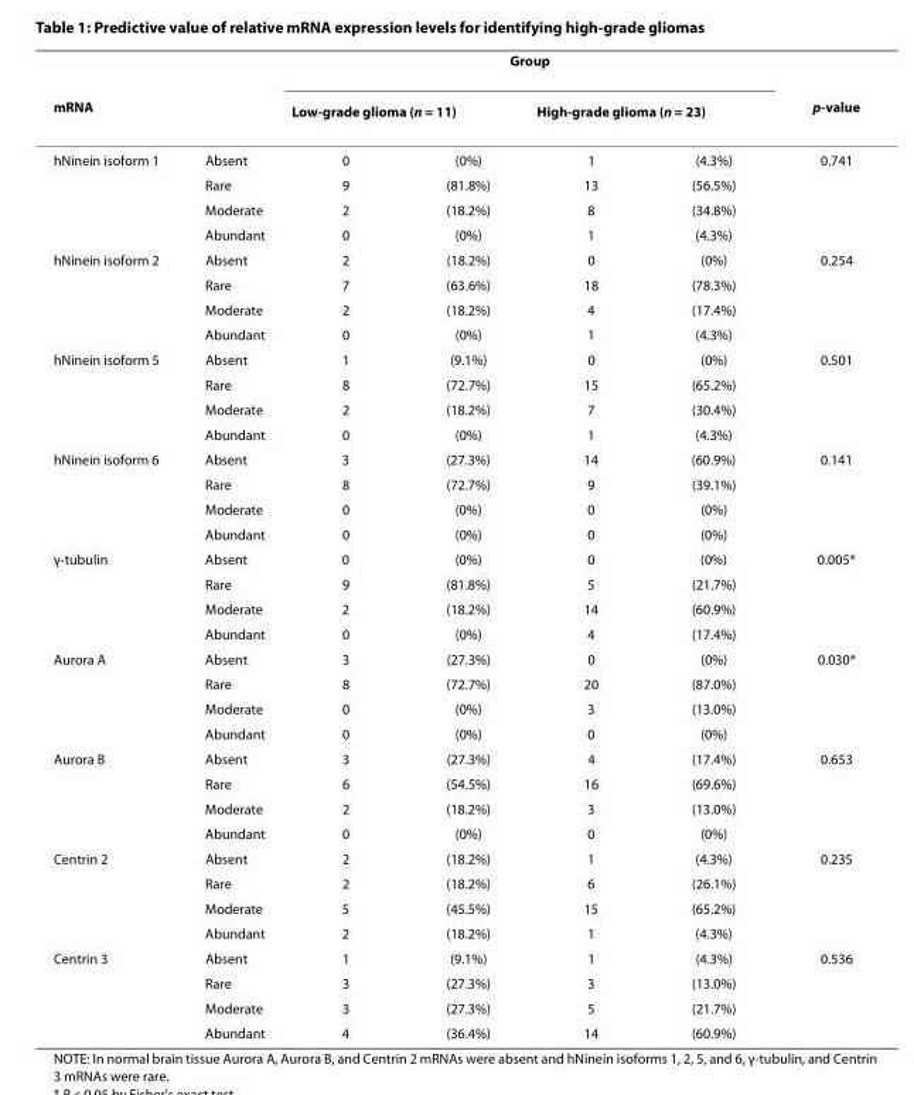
<table><thead><tr><td></td><td></td><td colspan="4">Group</td><td rowspan="3">p-value 0.741</td></tr><tr><td colspan="2">mRNA</td><td colspan="2">Low-grade glioma (n = 11)</td><td colspan="2">High-grade glioma (n = 23)</td></tr><tr><td>hNinein isoform 1</td><td>Absent</td><td>0</td><td>(0%)</td><td>1</td><td>(4.3%)</td></tr></thead><tbody><tr><td></td><td>Rare</td><td>9</td><td>(81.8%)</td><td>13</td><td>(56.5%)</td><td></td></tr><tr><td></td><td>Moderate</td><td>2</td><td>(18.2%)</td><td>8</td><td>(34.8%)</td><td></td></tr><tr><td></td><td>Abundant</td><td>0</td><td>(0%)</td><td>1</td><td>(4.3%)</td><td></td></tr><tr><td rowspan="4">hNinein isoform 2</td><td>Absent</td><td>2</td><td>(18.2%)</td><td>0</td><td>(0%)</td><td>0.254</td></tr><tr><td>Rare</td><td>7</td><td>(63.6%)</td><td>18</td><td>(78.3%)</td><td></td></tr><tr><td>Moderate</td><td>2</td><td>(18.2%)</td><td>4</td><td>(17.4%)</td><td></td></tr><tr><td>Abundant</td><td>0</td><td>(0%)</td><td>1</td><td>(4.3%)</td><td></td></tr><tr><td rowspan="4">hNinein isoform 5</td><td>Absent</td><td>1</td><td>(9.1%)</td><td>0</td><td>(0%)</td><td>0.501</td></tr><tr><td>Rare</td><td>8</td><td>(72.7%)</td><td>15</td><td>(65.2%)</td><td></td></tr><tr><td>Moderate</td><td>2</td><td>(18.2%)</td><td>7</td><td>(30.4%)</td><td></td></tr><tr><td>Abundant</td><td>0</td><td>(0%)</td><td>1</td><td>(4.3%)</td><td></td></tr><tr><td rowspan="4">hNinein isoform 6</td><td>Absent</td><td>3</td><td>(27.3%)</td><td>14</td><td>(60.9%)</td><td>0.141</td></tr><tr><td>Rare</td><td>8</td><td>(72.7%)</td><td>9</td><td>(39.1%)</td><td></td></tr><tr><td>Moderate</td><td>0</td><td>(0%)</td><td>0</td><td>(0%)</td><td></td></tr><tr><td>Abundant</td><td>0</td><td>(0%)</td><td>0</td><td>(0%)</td><td></td></tr><tr><td rowspan="4">γ-tubulin</td><td>Absent</td><td>0</td><td>(0%)</td><td>0</td><td>(0%)</td><td>0.005*</td></tr><tr><td>Rare</td><td>9</td><td>(81.8%)</td><td>5</td><td>(21.7%)</td><td></td></tr><tr><td>Moderate</td><td>2</td><td>(18.2%)</td><td>14</td><td>(60.9%)</td><td></td></tr><tr><td>Abundant</td><td>0</td><td>(0%)</td><td>4</td><td>(17.4%)</td><td></td></tr><tr><td rowspan="4">Aurora A</td><td>Absent</td><td>3</td><td>(27.3%)</td><td>0</td><td>(0%)</td><td>0.030*</td></tr><tr><td>Rare</td><td>8</td><td>(72.7%)</td><td>20</td><td>(87.0%)</td><td></td></tr><tr><td>Moderate</td><td>0</td><td>(0%)</td><td>3</td><td>(13.0%)</td><td></td></tr><tr><td>Abundant</td><td>0</td><td>(0%)</td><td>0</td><td>(0%)</td><td></td></tr><tr><td rowspan="4">Aurora B</td><td>Absent</td><td>3</td><td>(27.3%)</td><td>4</td><td>(17.4%)</td><td>0.653</td></tr><tr><td>Rare</td><td>6</td><td>(54.5%)</td><td>16</td><td>(69.6%)</td><td></td></tr><tr><td>Moderate</td><td>2</td><td>(18.2%)</td><td>3</td><td>(13.0%)</td><td></td></tr><tr><td>Abundant</td><td>0</td><td>(0%)</td><td>0</td><td>(0%)</td><td></td></tr><tr><td rowspan="4">Centrin 2</td><td>Absent</td><td>2</td><td>(18.2%)</td><td>1</td><td>(4.3%)</td><td>0.235</td></tr><tr><td>Rare</td><td>2</td><td>(18.2%)</td><td>6</td><td>(26.1%)</td><td></td></tr><tr><td>Moderate</td><td>5</td><td>(45.5%)</td><td>15</td><td>(65.2%)</td><td></td></tr><tr><td>Abundant</td><td>2</td><td>(18.2%)</td><td>1</td><td>(4.3%)</td><td></td></tr><tr><td rowspan="4">Centrin 3</td><td>Absent</td><td>1</td><td>(9.1%)</td><td>1</td><td>(4.3%)</td><td>0.536</td></tr><tr><td>Rare</td><td>3</td><td>(27.3%)</td><td>3</td><td>(13.0%)</td><td></td></tr><tr><td>Moderate</td><td>3</td><td>(27.3%)</td><td>5</td><td>(21.7%)</td><td></td></tr><tr><td>Abundant</td><td>4</td><td>(36.4%)</td><td>14</td><td>(60.9%)</td><td></td></tr></tbody></table>